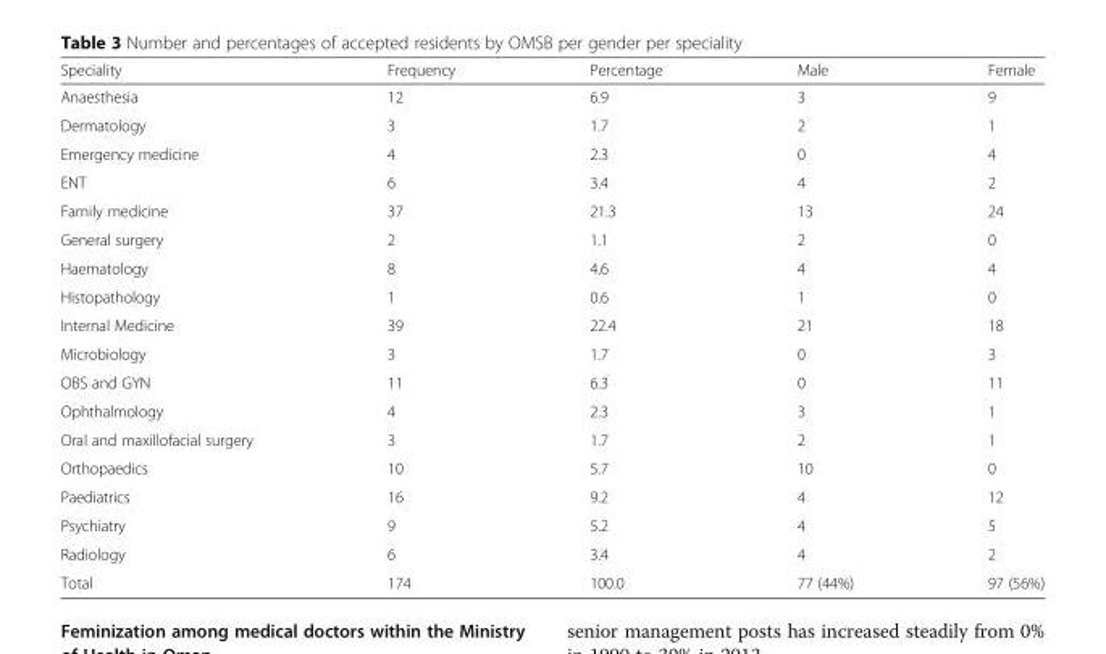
<table><thead><tr><td>Speciality</td><td>Frequency</td><td>Percentage</td><td>Male</td><td>Female</td></tr></thead><tbody><tr><td>Anaesthesia</td><td>12</td><td>6.9</td><td>3</td><td>9</td></tr><tr><td>Dermatology</td><td>3</td><td>1.7</td><td>2</td><td>1</td></tr><tr><td>Emergency medicine</td><td>4</td><td>2.3</td><td>0</td><td>4</td></tr><tr><td>ENT</td><td>6</td><td>3.4</td><td>4</td><td>2</td></tr><tr><td>Family medicine</td><td>37</td><td>21.3</td><td>13</td><td>24</td></tr><tr><td>General surgery</td><td>2</td><td>1.1</td><td>2</td><td>0</td></tr><tr><td>Haematology</td><td>8</td><td>4.6</td><td>4</td><td>4</td></tr><tr><td>Histopathology</td><td>1</td><td>0.6</td><td>1</td><td>0</td></tr><tr><td>Internal Medicine</td><td>39</td><td>22.4</td><td>21</td><td>18</td></tr><tr><td>Microbiology</td><td>3</td><td>1.7</td><td>0</td><td>3</td></tr><tr><td>OBS and GYN</td><td>11</td><td>6.3</td><td>0</td><td>11</td></tr><tr><td>Ophthalmology</td><td>4</td><td>2.3</td><td>3</td><td>1</td></tr><tr><td>Oral and maxillofacial surgery</td><td>3</td><td>1.7</td><td>2</td><td>1</td></tr><tr><td>Orthopaedics</td><td>10</td><td>5.7</td><td>10</td><td>0</td></tr><tr><td>Paediatrics</td><td>16</td><td>9.2</td><td>4</td><td>12</td></tr><tr><td>Psychiatry</td><td>9</td><td>5.2</td><td>4</td><td>5</td></tr><tr><td>Radiology</td><td>6</td><td>3.4</td><td>4</td><td>2</td></tr><tr><td>Total</td><td>174</td><td>100.0</td><td>77 (44%)</td><td>97 (56%)</td></tr></tbody></table>